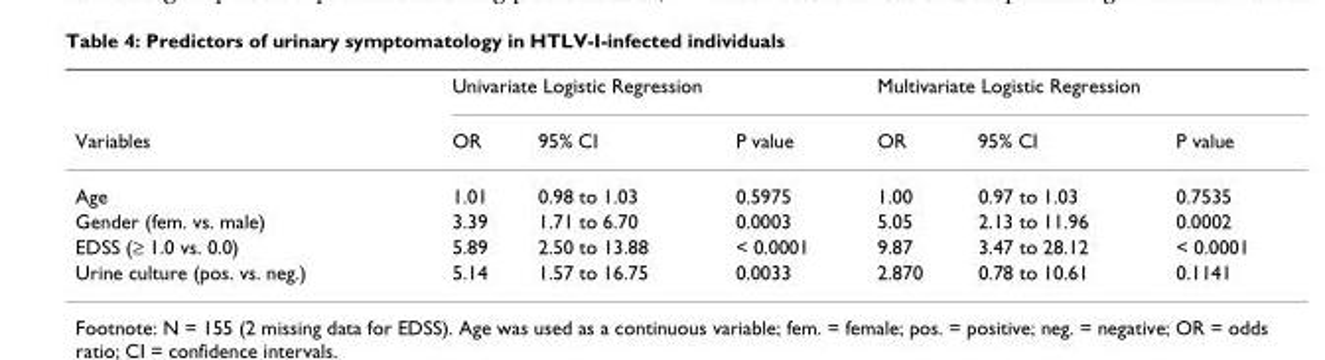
<table><thead><tr><td rowspan="2">Variables</td><td colspan="3">Univariate Logistic Regression</td><td colspan="3">Multivariate Logistic Regression</td></tr><tr><td>OR</td><td>95% CI</td><td>P value</td><td>OR</td><td>95% CI</td><td>P value</td></tr></thead><tbody><tr><td>Age</td><td>1.01</td><td>0.98 to 1.03</td><td>0.5975</td><td>1.00</td><td>0.97 to 1.03</td><td>0.7535</td></tr><tr><td>Gender (fem. vs. male)</td><td>3.39</td><td>1.71 to 6.70</td><td>0.0003</td><td>5.05</td><td>2.13 to 11.96</td><td>0.0002</td></tr><tr><td>EDSS (≥ 1.0 vs. 0.0)</td><td>5.89</td><td>2.50 to 13.88</td><td>&lt; 0.0001</td><td>9.87</td><td>3.47 to 28.12</td><td>&lt; 0.0001</td></tr><tr><td>Urine culture (pos. vs. neg.)</td><td>5.14</td><td>1.57 to 16.75</td><td>0.0033</td><td>2.870</td><td>0.78 to 10.61</td><td>0.1141</td></tr></tbody></table>